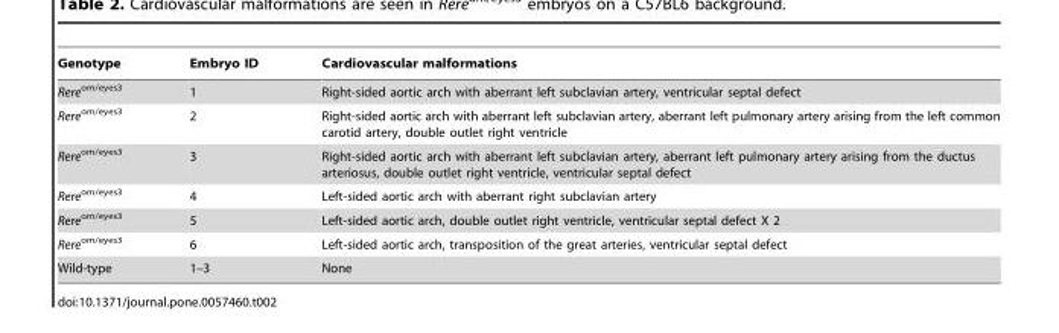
<table><thead><tr><td>Genotype</td><td>Embryo ID</td><td>Cardiovascular malformations</td></tr></thead><tbody><tr><td>Rere<sup>om/eyes3</sup></td><td>1</td><td>Right-sided aortic arch with aberrant left subclavian artery, ventricular septal defect</td></tr><tr><td>Rere<sup>om/eyes3</sup></td><td>2</td><td>Right-sided aortic arch with aberrant left subclavian artery, aberrant left pulmonary artery arising from the left common carotid artery, double outlet right ventricle</td></tr><tr><td>Rere<sup>om/eyes3</sup></td><td>3</td><td>Right-sided aortic arch with aberrant left subclavian artery, aberrant left pulmonary artery arising from the ductus arteriosus, double outlet right ventricle, ventricular septal defect</td></tr><tr><td>Rere<sup>om/eyes3</sup></td><td>4</td><td>Left-sided aortic arch with aberrant right subclavian artery</td></tr><tr><td>Rere<sup>om/eyes3</sup></td><td>5</td><td>Left-sided aortic arch, double outlet right ventricle, ventricular septal defect X 2</td></tr><tr><td>Rere<sup>om/eyes3</sup></td><td>6</td><td>Left-sided aortic arch, transposition of the great arteries, ventricular septal defect</td></tr><tr><td>Wild-type</td><td>1–3</td><td>None</td></tr></tbody></table>